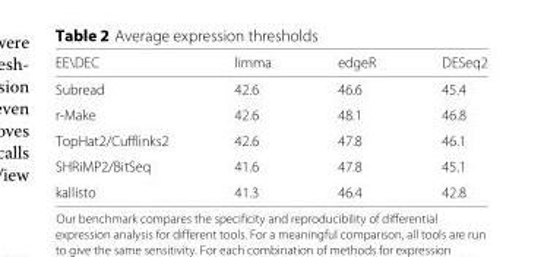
<table><thead><tr><td>EE\DEC</td><td>limma</td><td>edgeR</td><td>DESeq2</td></tr></thead><tbody><tr><td>Subread</td><td>42.6</td><td>46.6</td><td>45.4</td></tr><tr><td>r-Make</td><td>42.6</td><td>48.1</td><td>46.8</td></tr><tr><td>TopHat2/Cufflinks2</td><td>42.6</td><td>47.8</td><td>46.1</td></tr><tr><td>SHRiMP2/BitSeq</td><td>41.6</td><td>47.8</td><td>45.1</td></tr><tr><td>kallisto</td><td>41.3</td><td>46.4</td><td>42.8</td></tr></tbody></table>